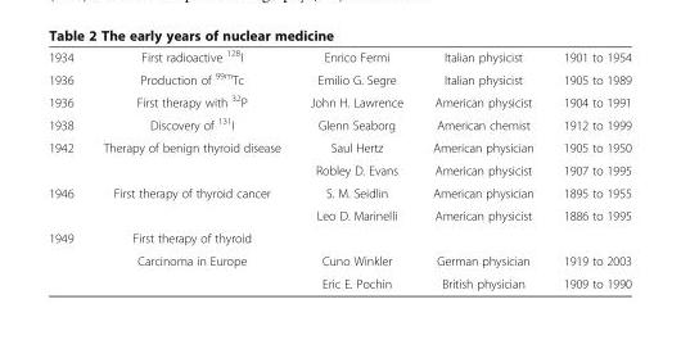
<table><tbody><tr><td>1934</td><td>First radioactive <sup>128</sup>I</td><td>Enrico Fermi</td><td>Italian physicist</td><td>1901 to 1954</td></tr><tr><td>1936</td><td>Production of <sup>99m</sup>Tc</td><td>Emilio G. Segre</td><td>Italian physicist</td><td>1905 to 1989</td></tr><tr><td>1936</td><td>First therapy with <sup>32</sup>P</td><td>John H. Lawrence</td><td>American physicist</td><td>1904 to 1991</td></tr><tr><td>1938</td><td>Discovery of <sup>131</sup>I</td><td>Glenn Seaborg</td><td>American chemist</td><td>1912 to 1999</td></tr><tr><td rowspan="2">1942</td><td>Therapy of benign thyroid disease</td><td>Saul Hertz</td><td>American physician</td><td>1905 to 1950</td></tr><tr><td></td><td>Robley D. Evans</td><td>American physicist</td><td>1907 to 1995</td></tr><tr><td rowspan="2">1946</td><td>First therapy of thyroid cancer</td><td>S. M. Seidlin</td><td>American physician</td><td>1895 to 1955</td></tr><tr><td></td><td>Leo D. Marinelli</td><td>American physicist</td><td>1886 to 1995</td></tr><tr><td rowspan="3">1949</td><td>First therapy of thyroid</td><td></td><td></td><td></td></tr><tr><td>Carcinoma in Europe</td><td>Cuno Winkler</td><td>German physician</td><td>1919 to 2003</td></tr><tr><td></td><td>Eric E. Pochin</td><td>British physician</td><td>1909 to 1990</td></tr></tbody></table>